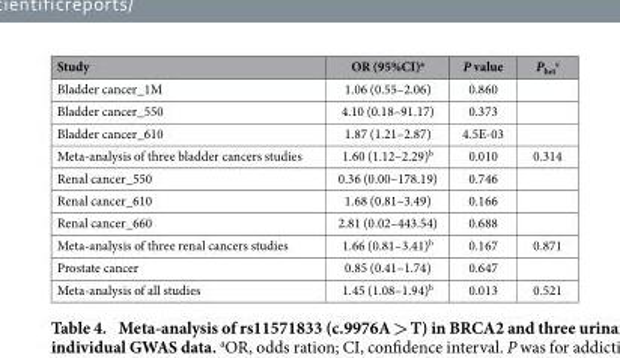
<table><thead><tr><td>Study</td><td>OR (95%CI)<sup>a</sup></td><td>P value</td><td>P<sub>het</sub> <sup>c</sup></td></tr></thead><tbody><tr><td>Bladder cancer_1M</td><td>1.06 (0.55–2.06)</td><td>0.860</td><td></td></tr><tr><td>Bladder cancer_550</td><td>4.10 (0.18–91.17)</td><td>0.373</td><td></td></tr><tr><td>Bladder cancer_610</td><td>1.87 (1.21–2.87)</td><td>4.5E-03</td><td></td></tr><tr><td>Meta-analysis of three bladder cancers studies</td><td>1.60 (1.12–2.29)<sup>b</sup></td><td>0.010</td><td>0.314</td></tr><tr><td>Renal cancer_550</td><td>0.36 (0.00–178.19)</td><td>0.746</td><td></td></tr><tr><td>Renal cancer_610</td><td>1.68 (0.81–3.49)</td><td>0.166</td><td></td></tr><tr><td>Renal cancer_660</td><td>2.81 (0.02–443.54)</td><td>0.688</td><td></td></tr><tr><td>Meta-analysis of three renal cancers studies</td><td>1.66 (0.81–3.41)<sup>b</sup></td><td>0.167</td><td>0.871</td></tr><tr><td>Prostate cancer</td><td>0.85 (0.41–1.74)</td><td>0.647</td><td></td></tr><tr><td>Meta-analysis of all studies</td><td>1.45 (1.08–1.94)<sup>b</sup></td><td>0.013</td><td>0.521</td></tr></tbody></table>